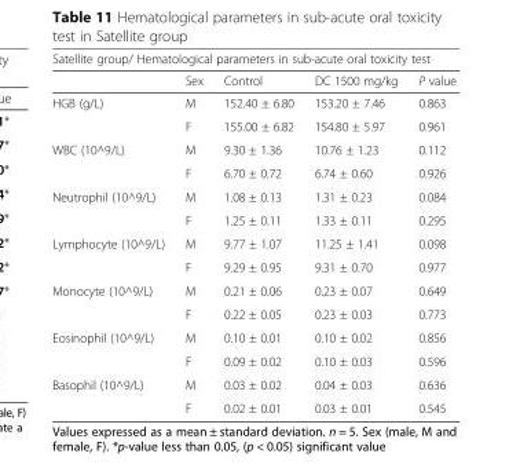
<table><thead><tr><td colspan="5">Satellite group/ Hematological parameters in sub-acute oral toxicity test</td></tr><tr><td></td><td>Sex</td><td>Control</td><td>DC 1500 mg/kg</td><td>P value</td></tr></thead><tbody><tr><td rowspan="2">HGB (g/L)</td><td>M</td><td>152.40 ± 6.80</td><td>153.20 ± 7.46</td><td>0.863</td></tr><tr><td>F</td><td>155.00 ± 6.82</td><td>154.80 ± 5.97</td><td>0.961</td></tr><tr><td rowspan="2">WBC (10^9/L)</td><td>M</td><td>9.30 ± 1.36</td><td>10.76 ± 1.23</td><td>0.112</td></tr><tr><td>F</td><td>6.70 ± 0.72</td><td>6.74 ± 0.60</td><td>0.926</td></tr><tr><td rowspan="2">Neutrophil (10^9/L)</td><td>M</td><td>1.08 ± 0.13</td><td>1.31 ± 0.23</td><td>0.084</td></tr><tr><td>F</td><td>1.25 ± 0.11</td><td>1.33 ± 0.11</td><td>0.295</td></tr><tr><td rowspan="2">Lymphocyte (10^9/L)</td><td>M</td><td>9.77 ± 1.07</td><td>11.25 ± 1.41</td><td>0.098</td></tr><tr><td>F</td><td>9.29 ± 0.95</td><td>9.31 ± 0.70</td><td>0.977</td></tr><tr><td rowspan="2">Monocyte (10^9/L)</td><td>M</td><td>0.21 ± 0.06</td><td>0.23 ± 0.07</td><td>0.649</td></tr><tr><td>F</td><td>0.22 ± 0.05</td><td>0.23 ± 0.03</td><td>0.773</td></tr><tr><td rowspan="2">Eosinophil (10^9/L)</td><td>M</td><td>0.10 ± 0.01</td><td>0.10 ± 0.02</td><td>0.856</td></tr><tr><td>F</td><td>0.09 ± 0.02</td><td>0.10 ± 0.03</td><td>0.596</td></tr><tr><td rowspan="2">Basophil (10^9/L)</td><td>M</td><td>0.03 ± 0.02</td><td>0.04 ± 0.03</td><td>0.636</td></tr><tr><td>F</td><td>0.02 ± 0.01</td><td>0.03 ± 0.01</td><td>0.545</td></tr></tbody></table>